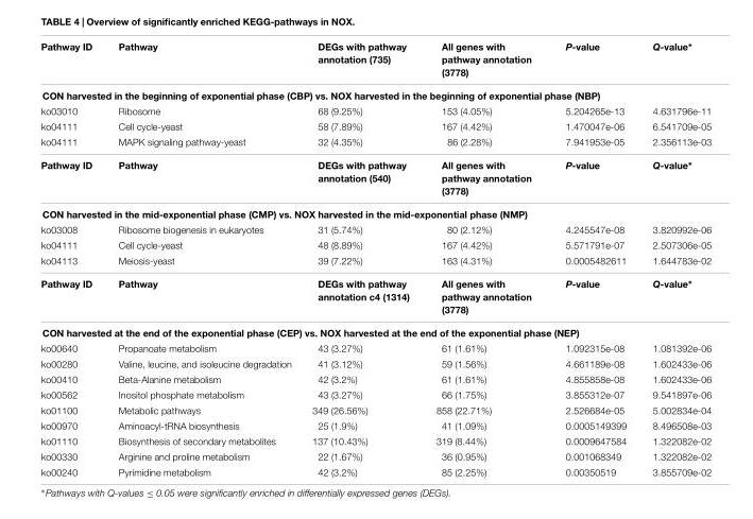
<table><thead><tr><td>Pathway ID</td><td>Pathway</td><td>DEGs with pathway annotation (735)</td><td>All genes with pathway annotation (3778)</td><td>P-value</td><td>Q-value∗</td></tr></thead><tbody><tr><td colspan="6">CON harvested in the beginning of exponential phase (CBP) vs. NOX harvested in the beginning of exponential phase (NBP)</td></tr><tr><td>ko03010</td><td>Ribosome</td><td>68 (9.25%)</td><td>153 (4.05%)</td><td>5.204265e-13</td><td>4.631796e-11</td></tr><tr><td>ko04111</td><td>Cell cycle-yeast</td><td>58 (7.89%)</td><td>167 (4.42%)</td><td>1.470047e-06</td><td>6.541709e-05</td></tr><tr><td>ko04111</td><td>MAPK signaling pathway-yeast</td><td>32 (4.35%)</td><td>86 (2.28%)</td><td>7.941953e-05</td><td>2.356113e-03</td></tr><tr><td>Pathway ID</td><td>Pathway</td><td>DEGs with pathway annotation (540)</td><td>All genes with pathway annotation (3778)</td><td>P-value</td><td>Q-value∗</td></tr><tr><td colspan="6">CON harvested in the mid-exponential phase (CMP) vs. NOX harvested in the mid-exponential phase (NMP)</td></tr><tr><td>ko03008</td><td>Ribosome biogenesis in eukaryotes</td><td>31 (5.74%)</td><td>80 (2.12%)</td><td>4.245547e-08</td><td>3.820992e-06</td></tr><tr><td>ko04111</td><td>Cell cycle-yeast</td><td>48 (8.89%)</td><td>167 (4.42%)</td><td>5.571791e-07</td><td>2.507306e-05</td></tr><tr><td>ko04113</td><td>Meiosis-yeast</td><td>39 (7.22%)</td><td>163 (4.31%)</td><td>0.0005482611</td><td>1.644783e-02</td></tr><tr><td>Pathway ID</td><td>Pathway</td><td>DEGs with pathway annotation c4 (1314)</td><td>All genes with pathway annotation (3778)</td><td>P-value</td><td>Q-value∗</td></tr><tr><td colspan="6">CON harvested at the end of the exponential phase (CEP) vs. NOX harvested at the end of the exponential phase (NEP)</td></tr><tr><td>ko00640</td><td>Propanoate metabolism</td><td>43 (3.27%)</td><td>61 (1.61%)</td><td>1.092315e-08</td><td>1.081392e-06</td></tr><tr><td>ko00280</td><td>Valine, leucine, and isoleucine degradation</td><td>41 (3.12%)</td><td>59 (1.56%)</td><td>4.661189e-08</td><td>1.602433e-06</td></tr><tr><td>ko00410</td><td>Beta-Alanine metabolism</td><td>42 (3.2%)</td><td>61 (1.61%)</td><td>4.855858e-08</td><td>1.602433e-06</td></tr><tr><td>ko00562</td><td>Inositol phosphate metabolism</td><td>43 (3.27%)</td><td>66 (1.75%)</td><td>3.855312e-07</td><td>9.541897e-06</td></tr><tr><td>ko01100</td><td>Metabolic pathways</td><td>349 (26.56%)</td><td>858 (22.71%)</td><td>2.526684e-05</td><td>5.002834e-04</td></tr><tr><td>ko00970</td><td>Aminoacyl-tRNA biosynthesis</td><td>25 (1.9%)</td><td>41 (1.09%)</td><td>0.0005149399</td><td>8.496508e-03</td></tr><tr><td>ko01110</td><td>Biosynthesis of secondary metabolites</td><td>137 (10.43%)</td><td>319 (8.44%)</td><td>0.0009647584</td><td>1.322082e-02</td></tr><tr><td>ko00330</td><td>Arginine and proline metabolism</td><td>22 (1.67%)</td><td>36 (0.95%)</td><td>0.001068349</td><td>1.322082e-02</td></tr><tr><td>ko00240</td><td>Pyrimidine metabolism</td><td>42 (3.2%)</td><td>85 (2.25%)</td><td>0.00350519</td><td>3.855709e-02</td></tr></tbody></table>